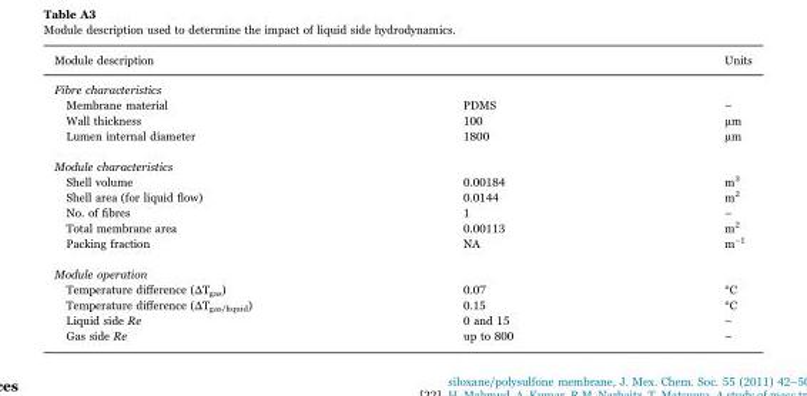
<table><thead><tr><td>Module description</td><td></td><td>Units</td></tr></thead><tbody><tr><td colspan="3">Fibre characteristics</td></tr><tr><td>Membrane material</td><td>PDMS</td><td>−</td></tr><tr><td>Wall thickness</td><td>100</td><td>µm</td></tr><tr><td>Lumen internal diameter</td><td>1800</td><td>µm</td></tr><tr><td colspan="3">Module characteristics</td></tr><tr><td>Shell volume</td><td>0.00184</td><td>m3</td></tr><tr><td>Shell area (for liquid flow)</td><td>0.0144</td><td>m2</td></tr><tr><td>No. of fibres</td><td>1</td><td>–</td></tr><tr><td>Total membrane area</td><td>0.00113</td><td>m2</td></tr><tr><td>Packing fraction</td><td>NA</td><td>m−1</td></tr><tr><td colspan="3">Module operation</td></tr><tr><td>Temperature difference (ΔTgas)</td><td>0.07</td><td>°C</td></tr><tr><td>Temperature difference (ΔTgas/liquid)</td><td>0.15</td><td>°C</td></tr><tr><td>Liquid side Re</td><td>0 and 15</td><td>–</td></tr><tr><td>Gas side Re</td><td>up to 800</td><td>–</td></tr></tbody></table>